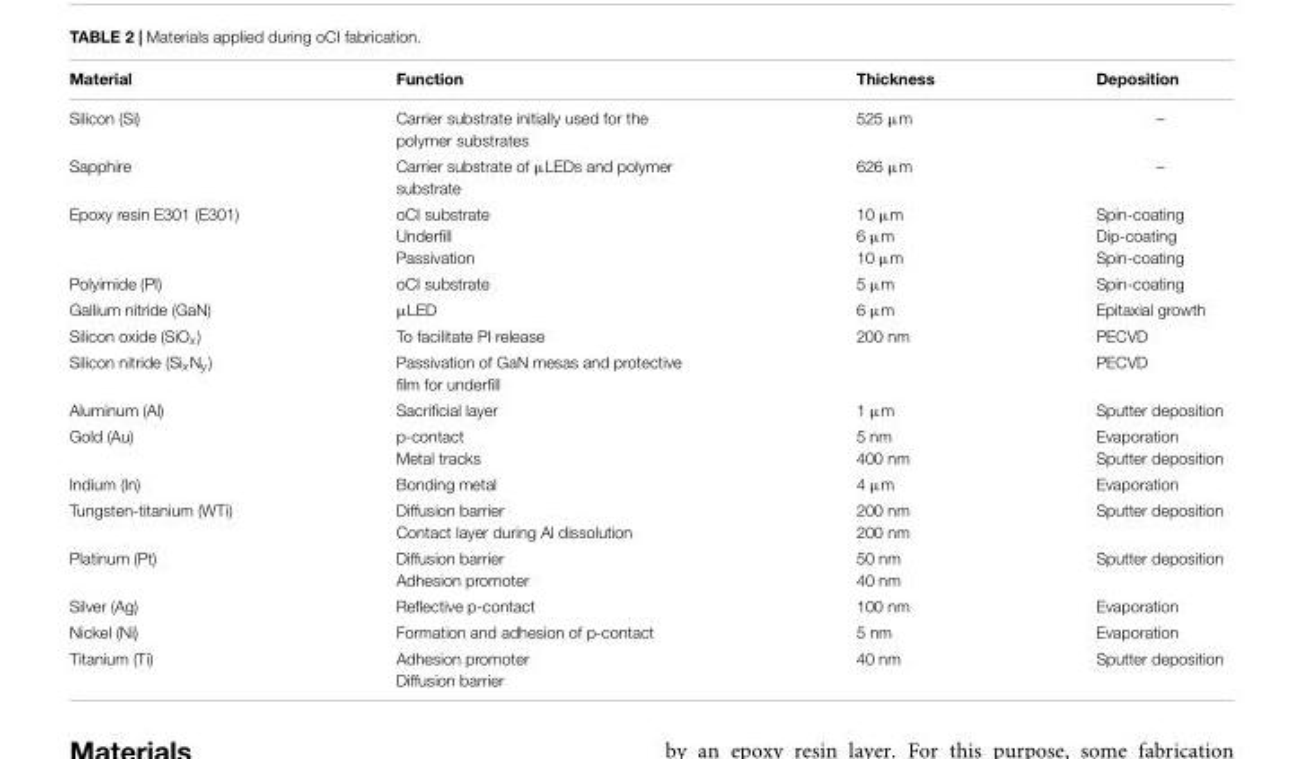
<table><thead><tr><td>Material</td><td>Function</td><td>Thickness</td><td>Deposition</td></tr></thead><tbody><tr><td>Silicon (Si)</td><td>Carrier substrate initially used for the polymer substrates</td><td>525 µm</td><td>–</td></tr><tr><td>Sapphire</td><td>Carrier substrate of µLEDs and polymer substrate</td><td>626 µm</td><td>–</td></tr><tr><td>Epoxy resin E301 (E301)</td><td>oCI substrate Underfill Passivation</td><td>10 µm 6 µm 10 µm</td><td>Spin-coating Dip-coating Spin-coating</td></tr><tr><td>Polyimide (PI)</td><td>oCI substrate</td><td>5 µm</td><td>Spin-coating</td></tr><tr><td>Gallium nitride (GaN)</td><td>µLED</td><td>6 µm</td><td>Epitaxial growth</td></tr><tr><td>Silicon oxide (SiO<sub>x</sub>)</td><td>To facilitate PI release</td><td>200 nm</td><td>PECVD</td></tr><tr><td>Silicon nitride (Si<sub>x</sub>N<sub>y</sub>)</td><td>Passivation of GaN mesas and protective film for underfill</td><td></td><td>PECVD</td></tr><tr><td>Aluminum (Al)</td><td>Sacrificial layer</td><td>1 µm</td><td>Sputter deposition</td></tr><tr><td>Gold (Au)</td><td>p-contact Metal tracks</td><td>5 nm 400 nm</td><td>Evaporation Sputter deposition</td></tr><tr><td>Indium (In)</td><td>Bonding metal</td><td>4 µm</td><td>Evaporation</td></tr><tr><td>Tungsten-titanium (WTi)</td><td>Diffusion barrier Contact layer during Al dissolution</td><td>200 nm 200 nm</td><td>Sputter deposition</td></tr><tr><td>Platinum (Pt)</td><td>Diffusion barrier Adhesion promoter</td><td>50 nm 40 nm</td><td>Sputter deposition</td></tr><tr><td>Silver (Ag)</td><td>Reflective p-contact</td><td>100 nm</td><td>Evaporation</td></tr><tr><td>Nickel (Ni)</td><td>Formation and adhesion of p-contact</td><td>5 nm</td><td>Evaporation</td></tr><tr><td>Titanium (Ti)</td><td>Adhesion promoter Diffusion barrier</td><td>40 nm</td><td>Sputter deposition</td></tr></tbody></table>